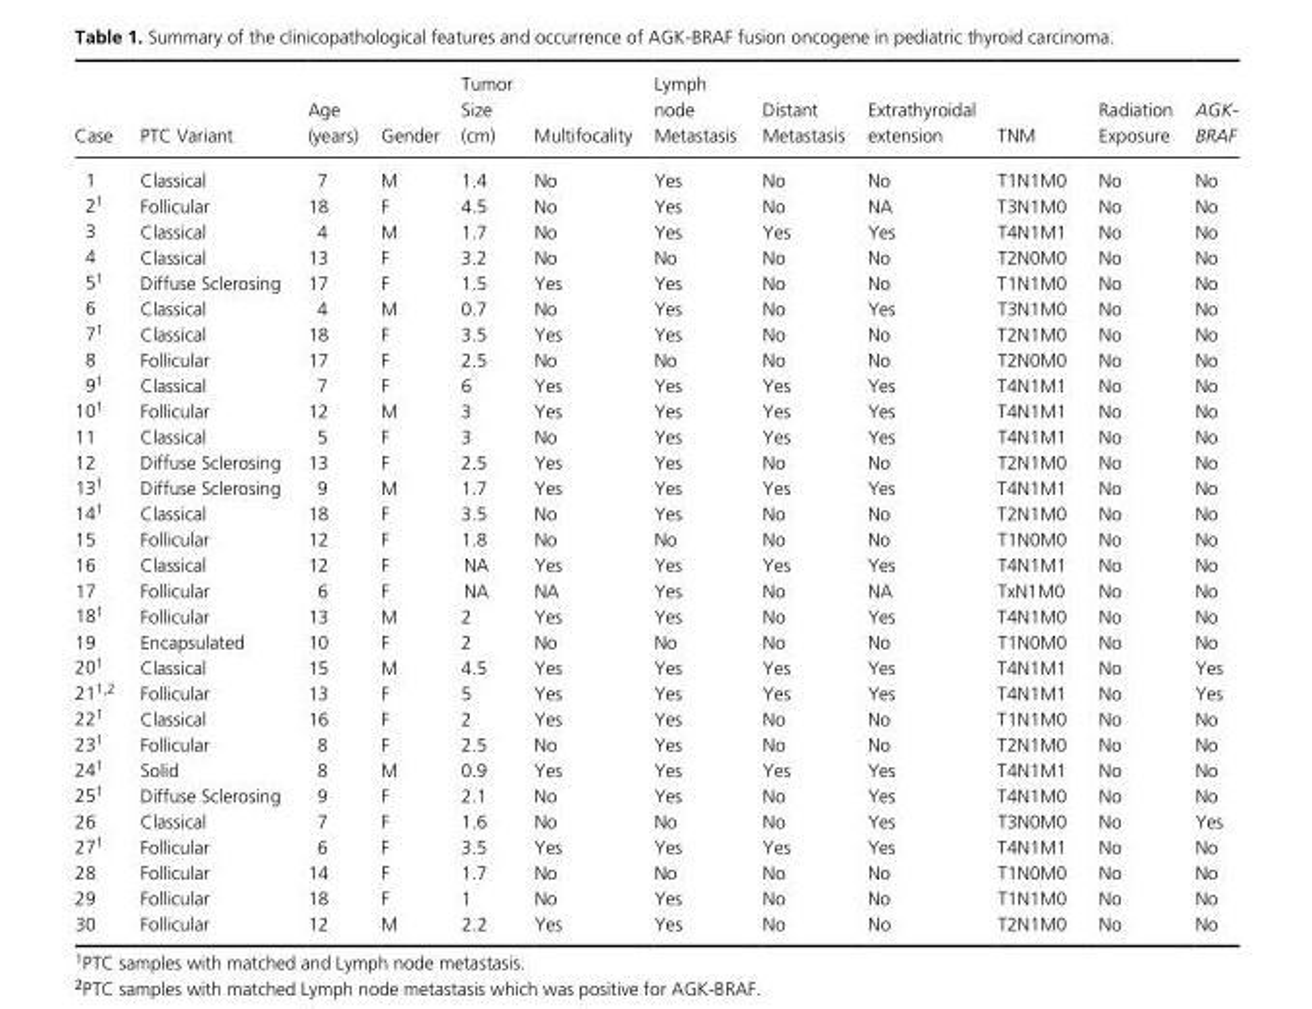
<table><thead><tr><td>Case</td><td>PTC Variant</td><td>Age (years)</td><td>Gender</td><td>Tumor Size (cm)</td><td>Multifocality</td><td>Lymph node Metastasis</td><td>Distant Metastasis</td><td>Extrathyroidal extension</td><td>TNM</td><td>Radiation Exposure</td><td>AGK- BRAF</td></tr></thead><tbody><tr><td>1</td><td>Classical</td><td>7</td><td>M</td><td>1.4</td><td>No</td><td>Yes</td><td>No</td><td>No</td><td>T1N1M0</td><td>No</td><td>No</td></tr><tr><td>21</td><td>Follicular</td><td>18</td><td>F</td><td>4.5</td><td>No</td><td>Yes</td><td>No</td><td>NA</td><td>T3N1M0</td><td>No</td><td>No</td></tr><tr><td>3</td><td>Classical</td><td>4</td><td>M</td><td>1.7</td><td>No</td><td>Yes</td><td>Yes</td><td>Yes</td><td>T4N1M1</td><td>No</td><td>No</td></tr><tr><td>4</td><td>Classical</td><td>13</td><td>F</td><td>3.2</td><td>No</td><td>No</td><td>No</td><td>No</td><td>T2N0M0</td><td>No</td><td>No</td></tr><tr><td>51</td><td>Diffuse Sclerosing</td><td>17</td><td>F</td><td>1.5</td><td>Yes</td><td>Yes</td><td>No</td><td>No</td><td>T1N1M0</td><td>No</td><td>No</td></tr><tr><td>6</td><td>Classical</td><td>4</td><td>M</td><td>0.7</td><td>No</td><td>Yes</td><td>No</td><td>Yes</td><td>T3N1M0</td><td>No</td><td>No</td></tr><tr><td>71</td><td>Classical</td><td>18</td><td>F</td><td>3.5</td><td>Yes</td><td>Yes</td><td>No</td><td>No</td><td>T2N1M0</td><td>No</td><td>No</td></tr><tr><td>8</td><td>Follicular</td><td>17</td><td>F</td><td>2.5</td><td>No</td><td>No</td><td>No</td><td>No</td><td>T2N0M0</td><td>No</td><td>No</td></tr><tr><td>91</td><td>Classical</td><td>7</td><td>F</td><td>6</td><td>Yes</td><td>Yes</td><td>Yes</td><td>Yes</td><td>T4N1M1</td><td>No</td><td>No</td></tr><tr><td>101</td><td>Follicular</td><td>12</td><td>M</td><td>3</td><td>Yes</td><td>Yes</td><td>Yes</td><td>Yes</td><td>T4N1M1</td><td>No</td><td>No</td></tr><tr><td>11</td><td>Classical</td><td>5</td><td>F</td><td>3</td><td>No</td><td>Yes</td><td>Yes</td><td>Yes</td><td>T4N1M1</td><td>No</td><td>No</td></tr><tr><td>12</td><td>Diffuse Sclerosing</td><td>13</td><td>F</td><td>2.5</td><td>Yes</td><td>Yes</td><td>No</td><td>No</td><td>T2N1M0</td><td>No</td><td>No</td></tr><tr><td>131</td><td>Diffuse Sclerosing</td><td>9</td><td>M</td><td>1.7</td><td>Yes</td><td>Yes</td><td>Yes</td><td>Yes</td><td>T4N1M1</td><td>No</td><td>No</td></tr><tr><td>141</td><td>Classical</td><td>18</td><td>F</td><td>3.5</td><td>No</td><td>Yes</td><td>No</td><td>No</td><td>T2N1M0</td><td>No</td><td>No</td></tr><tr><td>15</td><td>Follicular</td><td>12</td><td>F</td><td>1.8</td><td>No</td><td>No</td><td>No</td><td>No</td><td>T1N0M0</td><td>No</td><td>No</td></tr><tr><td>16</td><td>Classical</td><td>12</td><td>F</td><td>NA</td><td>Yes</td><td>Yes</td><td>Yes</td><td>Yes</td><td>T4N1M1</td><td>No</td><td>No</td></tr><tr><td>17</td><td>Follicular</td><td>6</td><td>F</td><td>NA</td><td>NA</td><td>Yes</td><td>No</td><td>NA</td><td>TxN1M0</td><td>No</td><td>No</td></tr><tr><td>181</td><td>Follicular</td><td>13</td><td>M</td><td>2</td><td>Yes</td><td>Yes</td><td>No</td><td>Yes</td><td>T4N1M0</td><td>No</td><td>No</td></tr><tr><td>19</td><td>Encapsulated</td><td>10</td><td>F</td><td>2</td><td>No</td><td>No</td><td>No</td><td>No</td><td>T1N0M0</td><td>No</td><td>No</td></tr><tr><td>201</td><td>Classical</td><td>15</td><td>M</td><td>4.5</td><td>Yes</td><td>Yes</td><td>Yes</td><td>Yes</td><td>T4N1M1</td><td>No</td><td>Yes</td></tr><tr><td>211,2</td><td>Follicular</td><td>13</td><td>F</td><td>5</td><td>Yes</td><td>Yes</td><td>Yes</td><td>Yes</td><td>T4N1M1</td><td>No</td><td>Yes</td></tr><tr><td>221</td><td>Classical</td><td>16</td><td>F</td><td>2</td><td>Yes</td><td>Yes</td><td>No</td><td>No</td><td>T1N1M0</td><td>No</td><td>No</td></tr><tr><td>231</td><td>Follicular</td><td>8</td><td>F</td><td>2.5</td><td>No</td><td>Yes</td><td>No</td><td>No</td><td>T2N1M0</td><td>No</td><td>No</td></tr><tr><td>241</td><td>Solid</td><td>8</td><td>M</td><td>0.9</td><td>Yes</td><td>Yes</td><td>Yes</td><td>Yes</td><td>T4N1M1</td><td>No</td><td>No</td></tr><tr><td>251</td><td>Diffuse Sclerosing</td><td>9</td><td>F</td><td>2.1</td><td>No</td><td>Yes</td><td>No</td><td>Yes</td><td>T4N1M0</td><td>No</td><td>No</td></tr><tr><td>26</td><td>Classical</td><td>7</td><td>F</td><td>1.6</td><td>No</td><td>No</td><td>No</td><td>Yes</td><td>T3N0M0</td><td>No</td><td>Yes</td></tr><tr><td>271</td><td>Follicular</td><td>6</td><td>F</td><td>3.5</td><td>Yes</td><td>Yes</td><td>Yes</td><td>Yes</td><td>T4N1M1</td><td>No</td><td>No</td></tr><tr><td>28</td><td>Follicular</td><td>14</td><td>F</td><td>1.7</td><td>No</td><td>No</td><td>No</td><td>No</td><td>T1N0M0</td><td>No</td><td>No</td></tr><tr><td>29</td><td>Follicular</td><td>18</td><td>F</td><td>1</td><td>No</td><td>Yes</td><td>No</td><td>No</td><td>T1N1M0</td><td>No</td><td>No</td></tr><tr><td>30</td><td>Follicular</td><td>12</td><td>M</td><td>2.2</td><td>Yes</td><td>Yes</td><td>No</td><td>No</td><td>T2N1M0</td><td>No</td><td>No</td></tr></tbody></table>